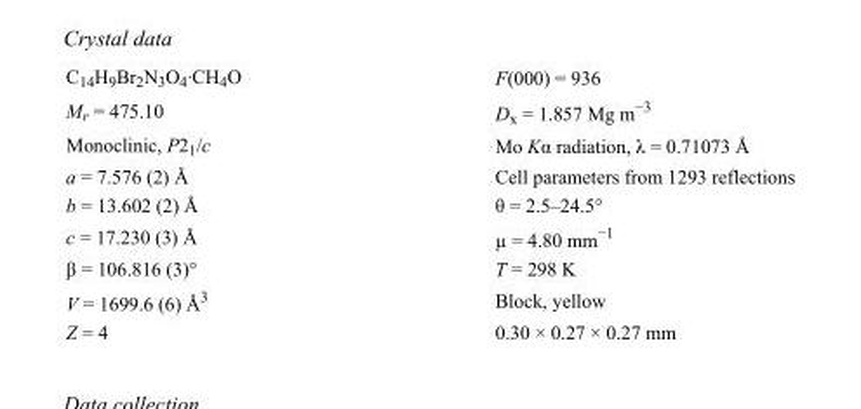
<table><tbody><tr><td>C<sub>14</sub>H<sub>9</sub>Br<sub>2</sub>N<sub>3</sub>O<sub>4</sub>·CH<sub>4</sub>O</td><td>F(000) = 936</td></tr><tr><td>M<sub>r</sub> = 475.10</td><td>D<sub>x</sub> = 1.857 Mg m<sup>−3</sup></td></tr><tr><td>Monoclinic, P2<sub>1</sub>/c</td><td>Mo Kα radiation, λ = 0.71073 Å</td></tr><tr><td>a = 7.576 (2) Å</td><td>Cell parameters from 1293 reflections</td></tr><tr><td>b = 13.602 (2) Å</td><td>θ = 2.5–24.5°</td></tr><tr><td>c = 17.230 (3) Å</td><td>µ = 4.80 mm<sup>−1</sup></td></tr><tr><td>β = 106.816 (3)°</td><td>T = 298 K</td></tr><tr><td>V = 1699.6 (6) Å<sup>3</sup></td><td>Block, yellow</td></tr><tr><td>Z = 4</td><td>0.30 × 0.27 × 0.27 mm</td></tr></tbody></table>